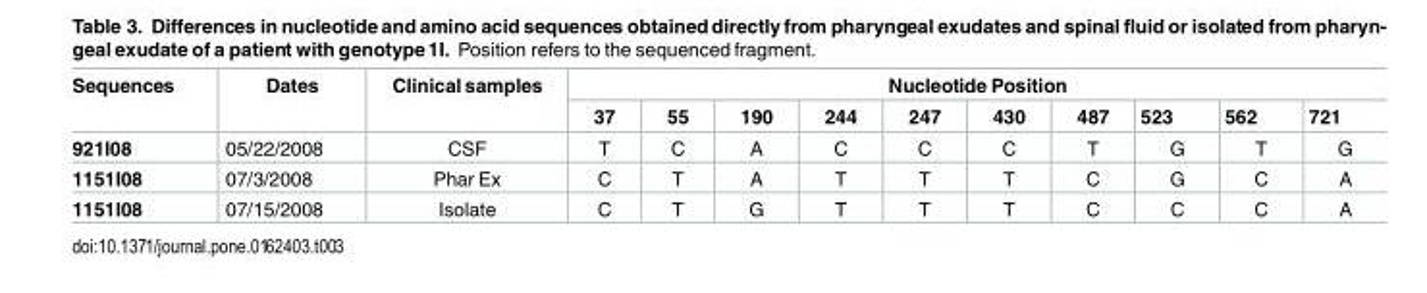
<table><thead><tr><td rowspan="2">Sequences</td><td rowspan="2">Dates</td><td rowspan="2">Clinical samples</td><td colspan="10">Nucleotide Position</td></tr><tr><td>37</td><td>55</td><td>190</td><td>244</td><td>247</td><td>430</td><td>487</td><td>523</td><td>562</td><td>721</td></tr></thead><tbody><tr><td>921I08</td><td>05/22/2008</td><td>CSF</td><td>T</td><td>C</td><td>A</td><td>C</td><td>C</td><td>C</td><td>T</td><td>G</td><td>T</td><td>G</td></tr><tr><td>1151I08</td><td>07/3/2008</td><td>Phar Ex</td><td>C</td><td>T</td><td>A</td><td>T</td><td>T</td><td>T</td><td>C</td><td>G</td><td>C</td><td>A</td></tr><tr><td>1151I08</td><td>07/15/2008</td><td>Isolate</td><td>C</td><td>T</td><td>G</td><td>T</td><td>T</td><td>T</td><td>C</td><td>C</td><td>C</td><td>A</td></tr></tbody></table>